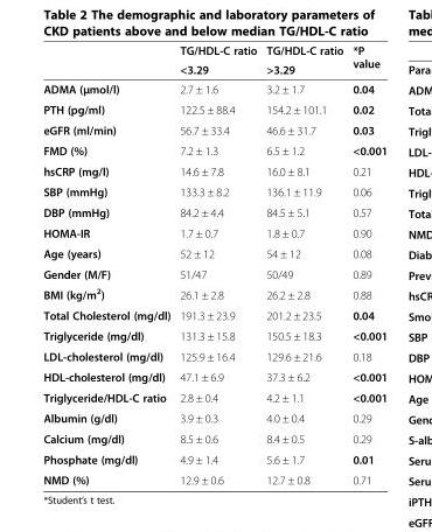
<table><thead><tr><td rowspan="2"></td><td rowspan="2">TG/HDL-C ratio &lt;3.29</td><td rowspan="2">TG/HDL-C ratio &gt;3.29</td><td rowspan="2">*P value</td></tr><tr></tr></thead><tbody><tr><td>ADMA (μmol/l)</td><td>2.7 ± 1.6</td><td>3.2 ± 1.7</td><td>0.04</td></tr><tr><td>PTH (pg/ml)</td><td>122.5 ± 88.4</td><td>154.2 ± 101.1</td><td>0.02</td></tr><tr><td>eGFR (ml/min)</td><td>56.7 ± 33.4</td><td>46.6 ± 31.7</td><td>0.03</td></tr><tr><td>FMD (%)</td><td>7.2 ± 1.3</td><td>6.5 ± 1.2</td><td>&lt;0.001</td></tr><tr><td>hsCRP (mg/l)</td><td>14.6 ± 7.8</td><td>16.0 ± 8.1</td><td>0.21</td></tr><tr><td>SBP (mmHg)</td><td>133.3 ± 8.2</td><td>136.1 ± 11.9</td><td>0.06</td></tr><tr><td>DBP (mmHg)</td><td>84.2 ± 4.4</td><td>84.5 ± 5.1</td><td>0.57</td></tr><tr><td>HOMA-IR</td><td>1.7 ± 0.7</td><td>1.8 ± 0.7</td><td>0.90</td></tr><tr><td>Age (years)</td><td>52 ± 12</td><td>54 ± 12</td><td>0.08</td></tr><tr><td>Gender (M/F)</td><td>51/47</td><td>50/49</td><td>0.89</td></tr><tr><td>BMI (kg/m<sup>2</sup>)</td><td>26.1 ± 2.8</td><td>26.2 ± 2.8</td><td>0.88</td></tr><tr><td>Total Cholesterol (mg/dl)</td><td>191.3 ± 23.9</td><td>201.2 ± 23.5</td><td>0.04</td></tr><tr><td>Triglyceride (mg/dl)</td><td>131.3 ± 15.8</td><td>150.5 ± 18.3</td><td>&lt;0.001</td></tr><tr><td>LDL-cholesterol (mg/dl)</td><td>125.9 ± 16.4</td><td>129.6 ± 21.6</td><td>0.18</td></tr><tr><td>HDL-cholesterol (mg/dl)</td><td>47.1 ± 6.9</td><td>37.3 ± 6.2</td><td>&lt;0.001</td></tr><tr><td>Triglyceride/HDL-C ratio</td><td>2.8 ± 0.4</td><td>4.2 ± 1.1</td><td>&lt;0.001</td></tr><tr><td>Albumin (g/dl)</td><td>3.9 ± 0.3</td><td>4.0 ± 0.4</td><td>0.29</td></tr><tr><td>Calcium (mg/dl)</td><td>8.5 ± 0.6</td><td>8.4 ± 0.5</td><td>0.29</td></tr><tr><td>Phosphate (mg/dl)</td><td>4.9 ± 1.4</td><td>5.6 ± 1.7</td><td>0.01</td></tr><tr><td>NMD (%)</td><td>12.9 ± 0.6</td><td>12.7 ± 0.8</td><td>0.71</td></tr></tbody></table>